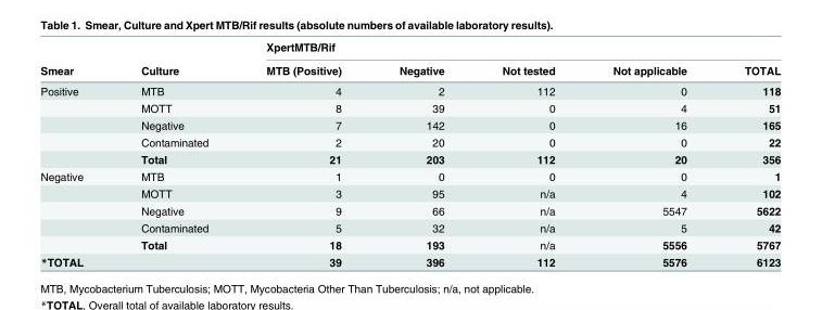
<table><thead><tr><td rowspan="2">Smear</td><td rowspan="2">Culture</td><td colspan="5">XpertMTB/Rif</td></tr><tr><td>MTB (Positive)</td><td>Negative</td><td>Not tested</td><td>Not applicable</td><td>TOTAL</td></tr></thead><tbody><tr><td rowspan="5">Positive</td><td>MTB</td><td>4</td><td>2</td><td>112</td><td>0</td><td>118</td></tr><tr><td>MOTT</td><td>8</td><td>39</td><td>0</td><td>4</td><td>51</td></tr><tr><td>Negative</td><td>7</td><td>142</td><td>0</td><td>16</td><td>165</td></tr><tr><td>Contaminated</td><td>2</td><td>20</td><td>0</td><td>0</td><td>22</td></tr><tr><td>Total</td><td>21</td><td>203</td><td>112</td><td>20</td><td>356</td></tr><tr><td rowspan="5">Negative</td><td>MTB</td><td>1</td><td>0</td><td>0</td><td>0</td><td>1</td></tr><tr><td>MOTT</td><td>3</td><td>95</td><td>n/a</td><td>4</td><td>102</td></tr><tr><td>Negative</td><td>9</td><td>66</td><td>n/a</td><td>5547</td><td>5622</td></tr><tr><td>Contaminated</td><td>5</td><td>32</td><td>n/a</td><td>5</td><td>42</td></tr><tr><td>Total</td><td>18</td><td>193</td><td>n/a</td><td>5556</td><td>5767</td></tr><tr><td>*TOTAL</td><td></td><td>39</td><td>396</td><td>112</td><td>5576</td><td>6123</td></tr></tbody></table>